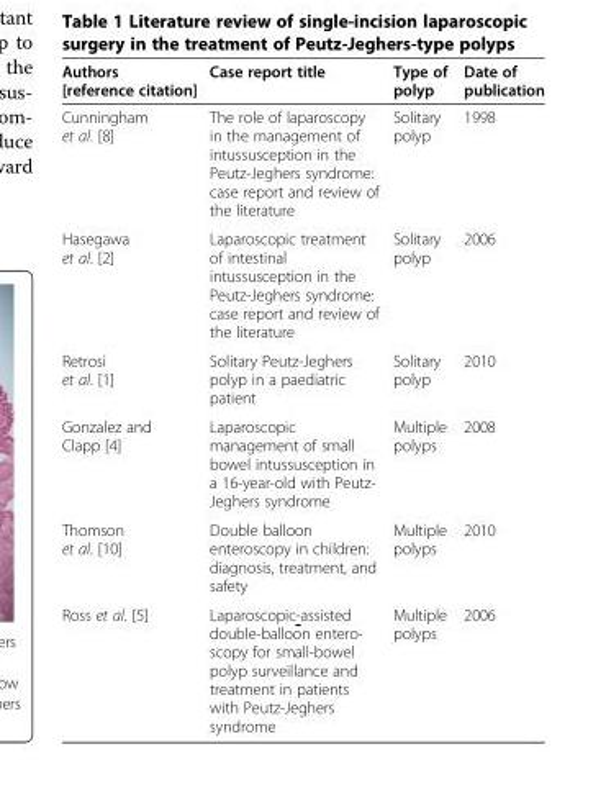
<table><thead><tr><td>Authors [reference citation]</td><td>Case report title</td><td>Type of polyp</td><td>Date of publication</td></tr></thead><tbody><tr><td>Cunningham et al. [8]</td><td>The role of laparoscopy in the management of intussusception in the Peutz-Jeghers syndrome: case report and review of the literature</td><td>Solitary polyp</td><td>1998</td></tr><tr><td>Hasegawa et al. [2]</td><td>Laparoscopic treatment of intestinal intussusception in the Peutz-Jeghers syndrome: case report and review of the literature</td><td>Solitary polyp</td><td>2006</td></tr><tr><td>Retrosi et al. [1]</td><td>Solitary Peutz-Jeghers polyp in a paediatric patient</td><td>Solitary polyp</td><td>2010</td></tr><tr><td>Gonzalez and Clapp [4]</td><td>Laparoscopic management of small bowel intussusception in a 16-year-old with Peutz- Jeghers syndrome</td><td>Multiple polyps</td><td>2008</td></tr><tr><td>Thomson et al. [10]</td><td>Double balloon enteroscopy in children: diagnosis, treatment, and safety</td><td>Multiple polyps</td><td>2010</td></tr><tr><td>Ross et al. [5]</td><td>Laparoscopic-assisted double-balloon entero- scopy for small-bowel polyp surveillance and treatment in patients with Peutz-Jeghers syndrome</td><td>Multiple polyps</td><td>2006</td></tr></tbody></table>